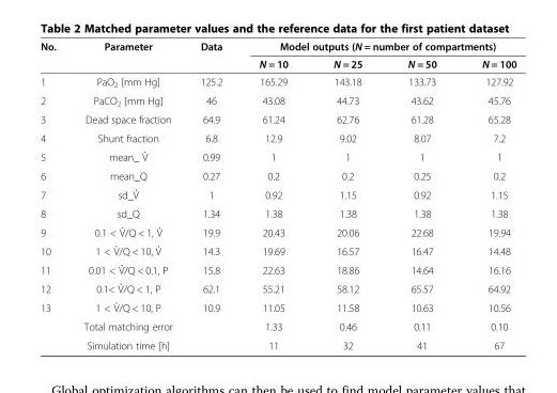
<table><thead><tr><td rowspan="2">No.</td><td rowspan="2">Parameter</td><td rowspan="2">Data</td><td colspan="4">Model outputs (N = number of compartments)</td></tr><tr><td>N = 10</td><td>N = 25</td><td>N = 50</td><td>N = 100</td></tr></thead><tbody><tr><td>1</td><td>PaO<sub>2</sub> [mm Hg]</td><td>125.2</td><td>165.29</td><td>143.18</td><td>133.73</td><td>127.92</td></tr><tr><td>2</td><td>PaCO<sub>2</sub> [mm Hg]</td><td>46</td><td>43.08</td><td>44.73</td><td>43.62</td><td>45.76</td></tr><tr><td>3</td><td>Dead space fraction</td><td>64.9</td><td>61.24</td><td>62.76</td><td>61.28</td><td>65.28</td></tr><tr><td>4</td><td>Shunt fraction</td><td>6.8</td><td>12.9</td><td>9.02</td><td>8.07</td><td>7.2</td></tr><tr><td>5</td><td>mean_ V̇</td><td>0.99</td><td>1</td><td>1</td><td>1</td><td>1</td></tr><tr><td>6</td><td>mean_Q</td><td>0.27</td><td>0.2</td><td>0.2</td><td>0.25</td><td>0.2</td></tr><tr><td>7</td><td>sd_V̇</td><td>1</td><td>0.92</td><td>1.15</td><td>0.92</td><td>1.15</td></tr><tr><td>8</td><td>sd_Q</td><td>1.34</td><td>1.38</td><td>1.38</td><td>1.38</td><td>1.38</td></tr><tr><td>9</td><td>0.1 &lt; V̇/Q &lt; 1, V̇</td><td>19.9</td><td>20.43</td><td>20.06</td><td>22.68</td><td>19.94</td></tr><tr><td>10</td><td>1 &lt; V̇/Q &lt; 10, V̇</td><td>14.3</td><td>19.69</td><td>16.57</td><td>16.47</td><td>14.48</td></tr><tr><td>11</td><td>0.01 &lt; V̇/Q &lt; 0.1, P</td><td>15.8</td><td>22.63</td><td>18.86</td><td>14.64</td><td>16.16</td></tr><tr><td>12</td><td>0.1&lt; V̇/Q &lt; 1, P</td><td>62.1</td><td>55.21</td><td>58.12</td><td>65.57</td><td>64.92</td></tr><tr><td rowspan="3">13</td><td>1 &lt; V̇/Q &lt; 10, P</td><td>10.9</td><td>11.05</td><td>11.58</td><td>10.63</td><td>10.56</td></tr><tr><td>Total matching error</td><td></td><td>1.33</td><td>0.46</td><td>0.11</td><td>0.10</td></tr><tr><td>Simulation time [h]</td><td></td><td>11</td><td>32</td><td>41</td><td>67</td></tr></tbody></table>